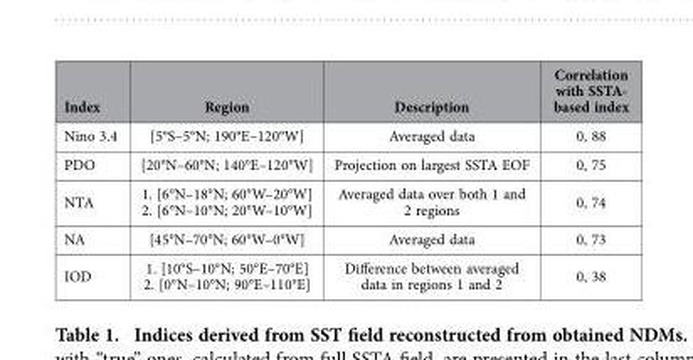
<table><thead><tr><td>Index</td><td>Region</td><td>Description</td><td>Correlation with SSTA- based index</td></tr></thead><tbody><tr><td>Nino 3.4</td><td>[5°S–5°N; 190°E–120°W]</td><td>Averaged data</td><td>0, 88</td></tr><tr><td>PDO</td><td>[20°N–60°N; 140°E–120°W]</td><td>Projection on largest SSTA EOF</td><td>0, 75</td></tr><tr><td>NTA</td><td>1. [6°N–18°N; 60°W–20°W] 2. [6°N–10°N; 20°W–10°W]</td><td>Averaged data over both 1 and 2 regions</td><td>0, 74</td></tr><tr><td>NA</td><td>[45°N–70°N; 60°W–0°W]</td><td>Averaged data</td><td>0, 73</td></tr><tr><td>IOD</td><td>1. [10°S–10°N; 50°E–70°E] 2. [0°N–10°N; 90°E–110°E]</td><td>Difference between averaged data in regions 1 and 2</td><td>0, 38</td></tr></tbody></table>